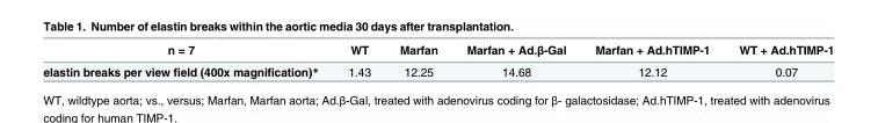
<table><thead><tr><td>n = 7</td><td>WT</td><td>Marfan</td><td>Marfan + Ad.β-Gal</td><td>Marfan + Ad.hTIMP-1</td><td>WT + Ad.hTIMP-1</td></tr></thead><tbody><tr><td>elastin breaks per view field (400x magnification)*</td><td>1.43</td><td>12.25</td><td>14.68</td><td>12.12</td><td>0.07</td></tr></tbody></table>